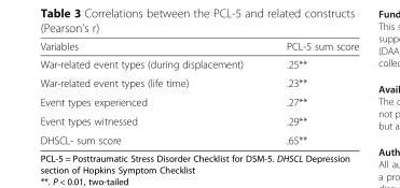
<table><thead><tr><td>Variables</td><td>PCL-5 sum score</td></tr></thead><tbody><tr><td>War-related event types (during displacement)</td><td>.25**</td></tr><tr><td>War-related event types (life time)</td><td>.23**</td></tr><tr><td>Event types experienced</td><td>.27**</td></tr><tr><td>Event types witnessed</td><td>.29**</td></tr><tr><td>DHSCL- sum score</td><td>.65**</td></tr></tbody></table>